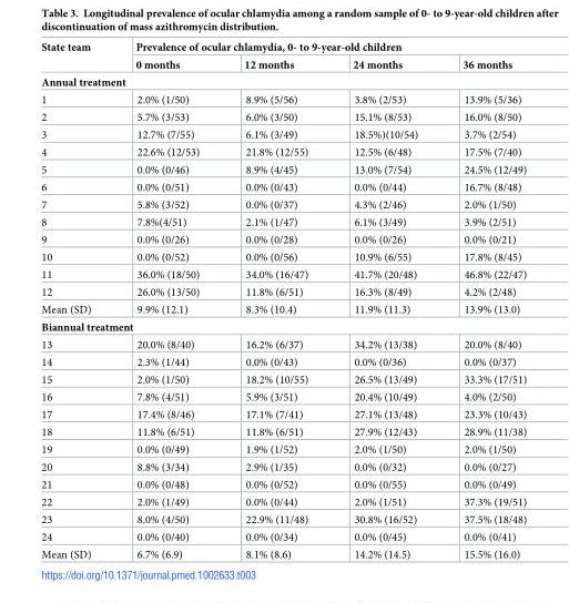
<table><thead><tr><td rowspan="2">State team</td><td colspan="4">Prevalence of ocular chlamydia, 0- to 9-year-old children</td></tr><tr><td>0 months</td><td>12 months</td><td>24 months</td><td>36 months</td></tr></thead><tbody><tr><td colspan="5">Annual treatment</td></tr><tr><td>1</td><td>2.0% (1/50)</td><td>8.9% (5/56)</td><td>3.8% (2/53)</td><td>13.9% (5/36)</td></tr><tr><td>2</td><td>5.7% (3/53)</td><td>6.0% (3/50)</td><td>15.1% (8/53)</td><td>16.0% (8/50)</td></tr><tr><td>3</td><td>12.7% (7/55)</td><td>6.1% (3/49)</td><td>18.5%)(10/54)</td><td>3.7% (2/54)</td></tr><tr><td>4</td><td>22.6% (12/53)</td><td>21.8% (12/55)</td><td>12.5% (6/48)</td><td>17.5% (7/40)</td></tr><tr><td>5</td><td>0.0% (0/46)</td><td>8.9% (4/45)</td><td>13.0% (7/54)</td><td>24.5% (12/49)</td></tr><tr><td>6</td><td>0.0% (0/51)</td><td>0.0% (0/43)</td><td>0.0% (0/44)</td><td>16.7% (8/48)</td></tr><tr><td>7</td><td>5.8% (3/52)</td><td>0.0% (0/37)</td><td>4.3% (2/46)</td><td>2.0% (1/50)</td></tr><tr><td>8</td><td>7.8%(4/51)</td><td>2.1% (1/47)</td><td>6.1% (3/49)</td><td>3.9% (2/51)</td></tr><tr><td>9</td><td>0.0% (0/26)</td><td>0.0% (0/28)</td><td>0.0% (0/26)</td><td>0.0% (0/21)</td></tr><tr><td>10</td><td>0.0% (0/52)</td><td>0.0% (0/56)</td><td>10.9% (6/55)</td><td>17.8% (8/45)</td></tr><tr><td>11</td><td>36.0% (18/50)</td><td>34.0% (16/47)</td><td>41.7% (20/48)</td><td>46.8% (22/47)</td></tr><tr><td>12</td><td>26.0% (13/50)</td><td>11.8% (6/51)</td><td>16.3% (8/49)</td><td>4.2% (2/48)</td></tr><tr><td>Mean (SD)</td><td>9.9% (12.1)</td><td>8.3% (10.4)</td><td>11.9% (11.3)</td><td>13.9% (13.0)</td></tr><tr><td colspan="5">Biannual treatment</td></tr><tr><td>13</td><td>20.0% (8/40)</td><td>16.2% (6/37)</td><td>34.2% (13/38)</td><td>20.0% (8/40)</td></tr><tr><td>14</td><td>2.3% (1/44)</td><td>0.0% (0/43)</td><td>0.0% (0/36)</td><td>0.0% (0/37)</td></tr><tr><td>15</td><td>2.0% (1/50)</td><td>18.2% (10/55)</td><td>26.5% (13/49)</td><td>33.3% (17/51)</td></tr><tr><td>16</td><td>7.8% (4/51)</td><td>5.9% (3/51)</td><td>20.4% (10/49)</td><td>4.0% (2/50)</td></tr><tr><td>17</td><td>17.4% (8/46)</td><td>17.1% (7/41)</td><td>27.1% (13/48)</td><td>23.3% (10/43)</td></tr><tr><td>18</td><td>11.8% (6/51)</td><td>11.8% (6/51)</td><td>27.9% (12/43)</td><td>28.9% (11/38)</td></tr><tr><td>19</td><td>0.0% (0/49)</td><td>1.9% (1/52)</td><td>2.0% (1/50)</td><td>2.0% (1/50)</td></tr><tr><td>20</td><td>8.8% (3/34)</td><td>2.9% (1/35)</td><td>0.0% (0/32)</td><td>0.0% (0/27)</td></tr><tr><td>21</td><td>0.0% (0/48)</td><td>0.0% (0/52)</td><td>0.0% (0/55)</td><td>0.0% (0/49)</td></tr><tr><td>22</td><td>2.0% (1/49)</td><td>0.0% (0/44)</td><td>2.0% (1/51)</td><td>37.3% (19/51)</td></tr><tr><td>23</td><td>8.0% (4/50)</td><td>22.9% (11/48)</td><td>30.8% (16/52)</td><td>37.5% (18/48)</td></tr><tr><td>24</td><td>0.0% (0/40)</td><td>0.0% (0/34)</td><td>0.0% (0/45)</td><td>0.0% (0/41)</td></tr><tr><td>Mean (SD)</td><td>6.7% (6.9)</td><td>8.1% (8.6)</td><td>14.2% (14.5)</td><td>15.5% (16.0)</td></tr></tbody></table>